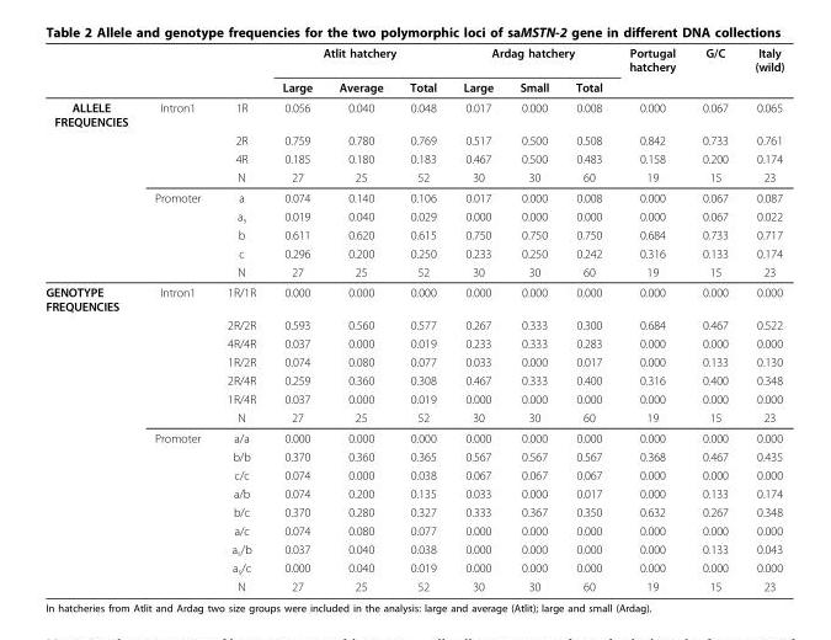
<table><thead><tr><td rowspan="2"></td><td rowspan="2"></td><td rowspan="2"></td><td colspan="3">Atlit hatchery</td><td colspan="3">Ardag hatchery</td><td rowspan="2">Portugal hatchery</td><td rowspan="2">G/C</td><td rowspan="2">Italy (wild)</td></tr><tr><td>Large</td><td>Average</td><td>Total</td><td>Large</td><td>Small</td><td>Total</td></tr></thead><tbody><tr><td rowspan="9">ALLELE FREQUENCIES</td><td>Intron1</td><td>1R</td><td>0.056</td><td>0.040</td><td>0.048</td><td>0.017</td><td>0.000</td><td>0.008</td><td>0.000</td><td>0.067</td><td>0.065</td></tr><tr><td></td><td>2R</td><td>0.759</td><td>0.780</td><td>0.769</td><td>0.517</td><td>0.500</td><td>0.508</td><td>0.842</td><td>0.733</td><td>0.761</td></tr><tr><td></td><td>4R</td><td>0.185</td><td>0.180</td><td>0.183</td><td>0.467</td><td>0.500</td><td>0.483</td><td>0.158</td><td>0.200</td><td>0.174</td></tr><tr><td></td><td>N</td><td>27</td><td>25</td><td>52</td><td>30</td><td>30</td><td>60</td><td>19</td><td>15</td><td>23</td></tr><tr><td>Promoter</td><td>a</td><td>0.074</td><td>0.140</td><td>0.106</td><td>0.017</td><td>0.000</td><td>0.008</td><td>0.000</td><td>0.067</td><td>0.087</td></tr><tr><td></td><td>a<sub>s</sub></td><td>0.019</td><td>0.040</td><td>0.029</td><td>0.000</td><td>0.000</td><td>0.000</td><td>0.000</td><td>0.067</td><td>0.022</td></tr><tr><td></td><td>b</td><td>0.611</td><td>0.620</td><td>0.615</td><td>0.750</td><td>0.750</td><td>0.750</td><td>0.684</td><td>0.733</td><td>0.717</td></tr><tr><td></td><td>c</td><td>0.296</td><td>0.200</td><td>0.250</td><td>0.233</td><td>0.250</td><td>0.242</td><td>0.316</td><td>0.133</td><td>0.174</td></tr><tr><td></td><td>N</td><td>27</td><td>25</td><td>52</td><td>30</td><td>30</td><td>60</td><td>19</td><td>15</td><td>23</td></tr><tr><td rowspan="16">GENOTYPE FREQUENCIES</td><td>Intron1</td><td>1R/1R</td><td>0.000</td><td>0.000</td><td>0.000</td><td>0.000</td><td>0.000</td><td>0.000</td><td>0.000</td><td>0.000</td><td>0.000</td></tr><tr><td></td><td>2R/2R</td><td>0.593</td><td>0.560</td><td>0.577</td><td>0.267</td><td>0.333</td><td>0.300</td><td>0.684</td><td>0.467</td><td>0.522</td></tr><tr><td></td><td>4R/4R</td><td>0.037</td><td>0.000</td><td>0.019</td><td>0.233</td><td>0.333</td><td>0.283</td><td>0.000</td><td>0.000</td><td>0.000</td></tr><tr><td></td><td>1R/2R</td><td>0.074</td><td>0.080</td><td>0.077</td><td>0.033</td><td>0.000</td><td>0.017</td><td>0.000</td><td>0.133</td><td>0.130</td></tr><tr><td></td><td>2R/4R</td><td>0.259</td><td>0.360</td><td>0.308</td><td>0.467</td><td>0.333</td><td>0.400</td><td>0.316</td><td>0.400</td><td>0.348</td></tr><tr><td></td><td>1R/4R</td><td>0.037</td><td>0.000</td><td>0.019</td><td>0.000</td><td>0.000</td><td>0.000</td><td>0.000</td><td>0.000</td><td>0.000</td></tr><tr><td></td><td>N</td><td>27</td><td>25</td><td>52</td><td>30</td><td>30</td><td>60</td><td>19</td><td>15</td><td>23</td></tr><tr><td>Promoter</td><td>a/a</td><td>0.000</td><td>0.000</td><td>0.000</td><td>0.000</td><td>0.000</td><td>0.000</td><td>0.000</td><td>0.000</td><td>0.000</td></tr><tr><td></td><td>b/b</td><td>0.370</td><td>0.360</td><td>0.365</td><td>0.567</td><td>0.567</td><td>0.567</td><td>0.368</td><td>0.467</td><td>0.435</td></tr><tr><td></td><td>c/c</td><td>0.074</td><td>0.000</td><td>0.038</td><td>0.067</td><td>0.067</td><td>0.067</td><td>0.000</td><td>0.000</td><td>0.000</td></tr><tr><td></td><td>a/b</td><td>0.074</td><td>0.200</td><td>0.135</td><td>0.033</td><td>0.000</td><td>0.017</td><td>0.000</td><td>0.133</td><td>0.174</td></tr><tr><td></td><td>b/c</td><td>0.370</td><td>0.280</td><td>0.327</td><td>0.333</td><td>0.367</td><td>0.350</td><td>0.632</td><td>0.267</td><td>0.348</td></tr><tr><td></td><td>a/c</td><td>0.074</td><td>0.080</td><td>0.077</td><td>0.000</td><td>0.000</td><td>0.000</td><td>0.000</td><td>0.000</td><td>0.000</td></tr><tr><td></td><td>a<sub>s</sub>/b</td><td>0.037</td><td>0.040</td><td>0.038</td><td>0.000</td><td>0.000</td><td>0.000</td><td>0.000</td><td>0.133</td><td>0.043</td></tr><tr><td></td><td>a<sub>s</sub>/c</td><td>0.000</td><td>0.040</td><td>0.019</td><td>0.000</td><td>0.000</td><td>0.000</td><td>0.000</td><td>0.000</td><td>0.000</td></tr><tr><td></td><td>N</td><td>27</td><td>25</td><td>52</td><td>30</td><td>30</td><td>60</td><td>19</td><td>15</td><td>23</td></tr></tbody></table>